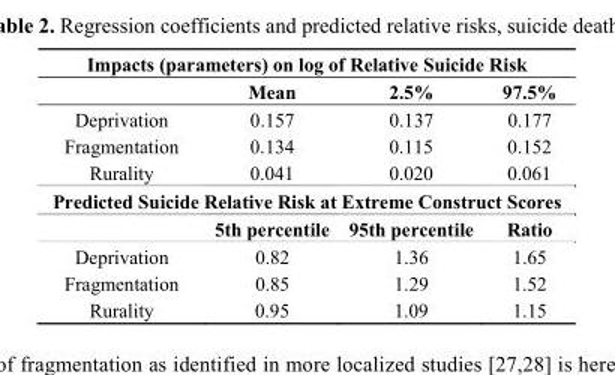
<table><thead><tr><td colspan="4">Impacts (parameters) on log of Relative Suicide Risk</td></tr><tr><td></td><td>Mean</td><td>2.5%</td><td>97.5%</td></tr></thead><tbody><tr><td>Deprivation</td><td>0.157</td><td>0.137</td><td>0.177</td></tr><tr><td>Fragmentation</td><td>0.134</td><td>0.115</td><td>0.152</td></tr><tr><td>Rurality</td><td>0.041</td><td>0.020</td><td>0.061</td></tr><tr><td colspan="4">Predicted Suicide Relative Risk at Extreme Construct Scores</td></tr><tr><td></td><td>5th percentile</td><td>95th percentile</td><td>Ratio</td></tr><tr><td>Deprivation</td><td>0.82</td><td>1.36</td><td>1.65</td></tr><tr><td>Fragmentation</td><td>0.85</td><td>1.29</td><td>1.52</td></tr><tr><td>Rurality</td><td>0.95</td><td>1.09</td><td>1.15</td></tr></tbody></table>